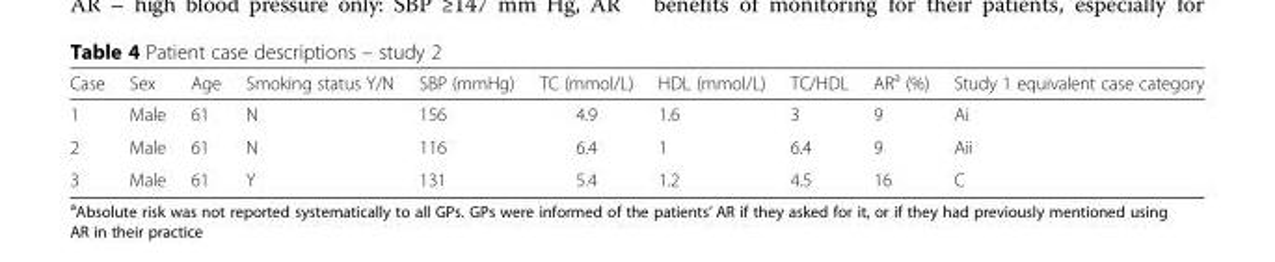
<table><thead><tr><td>Case</td><td>Sex</td><td>Age</td><td>Smoking status Y/N</td><td>SBP (mmHg)</td><td>TC (mmol/L)</td><td>HDL (mmol/L)</td><td>TC/HDL</td><td>AR<sup>a</sup> (%)</td><td>Study 1 equivalent case category</td></tr></thead><tbody><tr><td>1</td><td>Male</td><td>61</td><td>N</td><td>156</td><td>4.9</td><td>1.6</td><td>3</td><td>9</td><td>Ai</td></tr><tr><td>2</td><td>Male</td><td>61</td><td>N</td><td>116</td><td>6.4</td><td>1</td><td>6.4</td><td>9</td><td>Aii</td></tr><tr><td>3</td><td>Male</td><td>61</td><td>Y</td><td>131</td><td>5.4</td><td>1.2</td><td>4.5</td><td>16</td><td>C</td></tr></tbody></table>